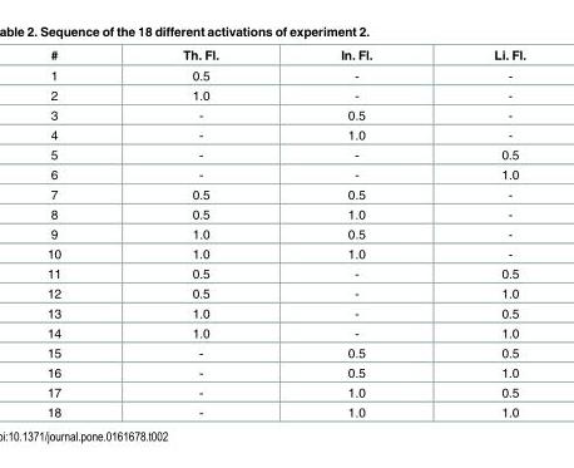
<table><thead><tr><td>#</td><td>Th. Fl.</td><td>In. Fl.</td><td>Li. Fl.</td></tr></thead><tbody><tr><td>1</td><td>0.5</td><td>-</td><td>-</td></tr><tr><td>2</td><td>1.0</td><td>-</td><td>-</td></tr><tr><td>3</td><td>-</td><td>0.5</td><td>-</td></tr><tr><td>4</td><td>-</td><td>1.0</td><td>-</td></tr><tr><td>5</td><td>-</td><td>-</td><td>0.5</td></tr><tr><td>6</td><td>-</td><td>-</td><td>1.0</td></tr><tr><td>7</td><td>0.5</td><td>0.5</td><td>-</td></tr><tr><td>8</td><td>0.5</td><td>1.0</td><td>-</td></tr><tr><td>9</td><td>1.0</td><td>0.5</td><td>-</td></tr><tr><td>10</td><td>1.0</td><td>1.0</td><td>-</td></tr><tr><td>11</td><td>0.5</td><td>-</td><td>0.5</td></tr><tr><td>12</td><td>0.5</td><td>-</td><td>1.0</td></tr><tr><td>13</td><td>1.0</td><td>-</td><td>0.5</td></tr><tr><td>14</td><td>1.0</td><td>-</td><td>1.0</td></tr><tr><td>15</td><td>-</td><td>0.5</td><td>0.5</td></tr><tr><td>16</td><td>-</td><td>0.5</td><td>1.0</td></tr><tr><td>17</td><td>-</td><td>1.0</td><td>0.5</td></tr><tr><td>18</td><td>-</td><td>1.0</td><td>1.0</td></tr></tbody></table>